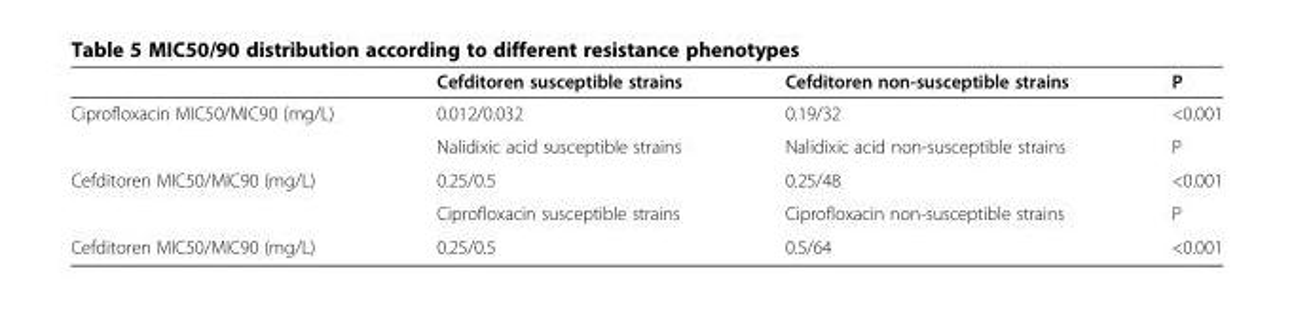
<table><thead><tr><td></td><td>Cefditoren susceptible strains</td><td>Cefditoren non-susceptible strains</td><td>P</td></tr></thead><tbody><tr><td rowspan="2">Ciprofloxacin MIC50/MIC90 (mg/L)</td><td>0.012/0.032</td><td>0.19/32</td><td>&lt;0.001</td></tr><tr><td>Nalidixic acid susceptible strains</td><td>Nalidixic acid non-susceptible strains</td><td>P</td></tr><tr><td rowspan="2">Cefditoren MIC50/MIC90 (mg/L)</td><td>0.25/0.5</td><td>0.25/48</td><td>&lt;0.001</td></tr><tr><td>Ciprofloxacin susceptible strains</td><td>Ciprofloxacin non-susceptible strains</td><td>P</td></tr><tr><td>Cefditoren MIC50/MIC90 (mg/L)</td><td>0.25/0.5</td><td>0.5/64</td><td>&lt;0.001</td></tr></tbody></table>